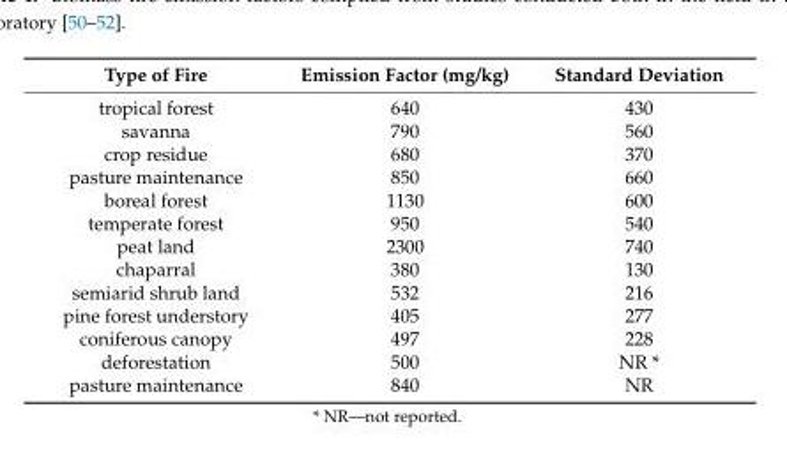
<table><thead><tr><td>Type of Fire</td><td>Emission Factor (mg/kg)</td><td>Standard Deviation</td></tr></thead><tbody><tr><td>tropical forest</td><td>640</td><td>430</td></tr><tr><td>savanna</td><td>790</td><td>560</td></tr><tr><td>crop residue</td><td>680</td><td>370</td></tr><tr><td>pasture maintenance</td><td>850</td><td>660</td></tr><tr><td>boreal forest</td><td>1130</td><td>600</td></tr><tr><td>temperate forest</td><td>950</td><td>540</td></tr><tr><td>peat land</td><td>2300</td><td>740</td></tr><tr><td>chaparral</td><td>380</td><td>130</td></tr><tr><td>semiarid shrub land</td><td>532</td><td>216</td></tr><tr><td>pine forest understory</td><td>405</td><td>277</td></tr><tr><td>coniferous canopy</td><td>497</td><td>228</td></tr><tr><td>deforestation</td><td>500</td><td>NR *</td></tr><tr><td>pasture maintenance</td><td>840</td><td>NR</td></tr></tbody></table>